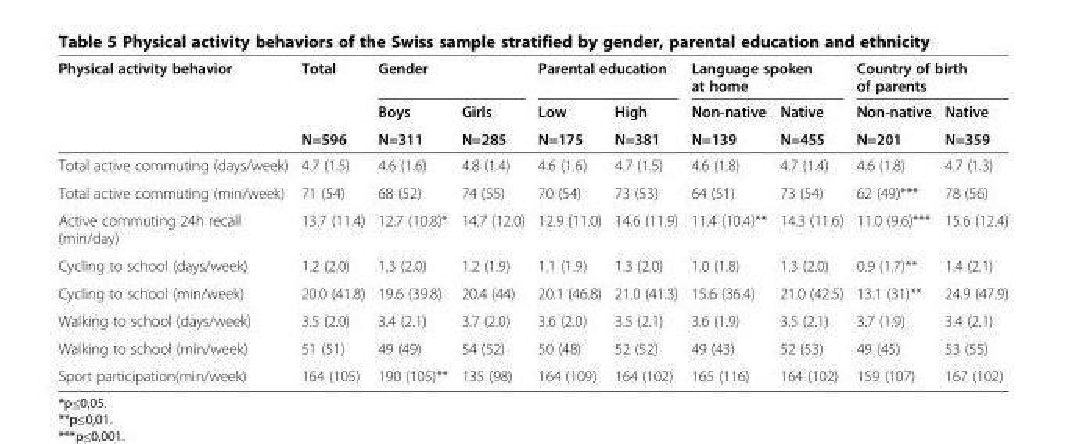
<table><thead><tr><td rowspan="2">Physical activity behavior</td><td rowspan="2">Total</td><td rowspan="2">Gender Boys</td><td rowspan="2">Girls</td><td colspan="2">Parental education</td><td colspan="2">Language spoken at home</td><td colspan="2">Country of birth of parents</td></tr><tr><td>Low</td><td>High</td><td>Non-native</td><td>Native</td><td>Non-native</td><td>Native</td></tr></thead><tbody><tr><td></td><td>N=596</td><td>N=311</td><td>N=285</td><td>N=175</td><td>N=381</td><td>N=139</td><td>N=455</td><td>N=201</td><td>N=359</td></tr><tr><td>Total active commuting (days/week)</td><td>4.7 (1.5)</td><td>4.6 (1.6)</td><td>4.8 (1.4)</td><td>4.6 (1.6)</td><td>4.7 (1.5)</td><td>4.6 (1.8)</td><td>4.7 (1.4)</td><td>4.6 (1.8)</td><td>4.7 (1.3)</td></tr><tr><td>Total active commuting (min/week)</td><td>71 (54)</td><td>68 (52)</td><td>74 (55)</td><td>70 (54)</td><td>73 (53)</td><td>64 (51)</td><td>73 (54)</td><td>62 (49)***</td><td>78 (56)</td></tr><tr><td>Active commuting 24h recall (min/day)</td><td>13.7 (11.4)</td><td>12.7 (10.8)*</td><td>14.7 (12.0)</td><td>12.9 (11.0)</td><td>14.6 (11.9)</td><td>11.4 (10.4)**</td><td>14.3 (11.6)</td><td>11.0 (9.6)***</td><td>15.6 (12.4)</td></tr><tr><td>Cycling to school (days/week)</td><td>1.2 (2.0)</td><td>1.3 (2.0)</td><td>1.2 (1.9)</td><td>1.1 (1.9)</td><td>1.3 (2.0)</td><td>1.0 (1.8)</td><td>1.3 (2.0)</td><td>0.9 (1.7)**</td><td>1.4 (2.1)</td></tr><tr><td>Cycling to school (min/week)</td><td>20.0 (41.8)</td><td>19.6 (39.8)</td><td>20.4 (44)</td><td>20.1 (46.8)</td><td>21.0 (41.3)</td><td>15.6 (36.4)</td><td>21.0 (42.5)</td><td>13.1 (31)**</td><td>24.9 (47.9)</td></tr><tr><td>Walking to school (days/week)</td><td>3.5 (2.0)</td><td>3.4 (2.1)</td><td>3.7 (2.0)</td><td>3.6 (2.0)</td><td>3.5 (2.1)</td><td>3.6 (1.9)</td><td>3.5 (2.1)</td><td>3.7 (1.9)</td><td>3.4 (2.1)</td></tr><tr><td>Walking to school (min/week)</td><td>51 (51)</td><td>49 (49)</td><td>54 (52)</td><td>50 (48)</td><td>52 (52)</td><td>49 (43)</td><td>52 (53)</td><td>49 (45)</td><td>53 (55)</td></tr><tr><td>Sport participation(min/week)</td><td>164 (105)</td><td>190 (105)**</td><td>135 (98)</td><td>164 (109)</td><td>164 (102)</td><td>165 (116)</td><td>164 (102)</td><td>159 (107)</td><td>167 (102)</td></tr></tbody></table>